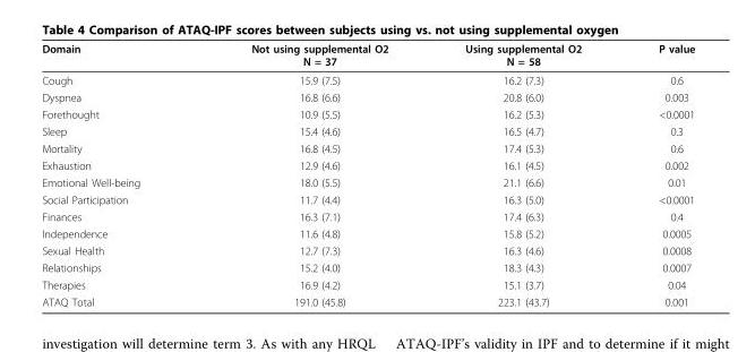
<table><thead><tr><td>Domain</td><td>Not using supplemental O2 N = 37</td><td>Using supplemental O2 N = 58</td><td>P value</td></tr></thead><tbody><tr><td>Cough</td><td>15.9 (7.5)</td><td>16.2 (7.3)</td><td>0.6</td></tr><tr><td>Dyspnea</td><td>16.8 (6.6)</td><td>20.8 (6.0)</td><td>0.003</td></tr><tr><td>Forethought</td><td>10.9 (5.5)</td><td>16.2 (5.3)</td><td>&lt;0.0001</td></tr><tr><td>Sleep</td><td>15.4 (4.6)</td><td>16.5 (4.7)</td><td>0.3</td></tr><tr><td>Mortality</td><td>16.8 (4.5)</td><td>17.4 (5.3)</td><td>0.6</td></tr><tr><td>Exhaustion</td><td>12.9 (4.6)</td><td>16.1 (4.5)</td><td>0.002</td></tr><tr><td>Emotional Well-being</td><td>18.0 (5.5)</td><td>21.1 (6.6)</td><td>0.01</td></tr><tr><td>Social Participation</td><td>11.7 (4.4)</td><td>16.3 (5.0)</td><td>&lt;0.0001</td></tr><tr><td>Finances</td><td>16.3 (7.1)</td><td>17.4 (6.3)</td><td>0.4</td></tr><tr><td>Independence</td><td>11.6 (4.8)</td><td>15.8 (5.2)</td><td>0.0005</td></tr><tr><td>Sexual Health</td><td>12.7 (7.3)</td><td>16.3 (4.6)</td><td>0.0008</td></tr><tr><td>Relationships</td><td>15.2 (4.0)</td><td>18.3 (4.3)</td><td>0.0007</td></tr><tr><td>Therapies</td><td>16.9 (4.2)</td><td>15.1 (3.7)</td><td>0.04</td></tr><tr><td>ATAQ Total</td><td>191.0 (45.8)</td><td>223.1 (43.7)</td><td>0.001</td></tr></tbody></table>